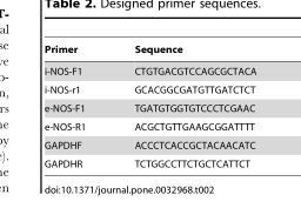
<table><thead><tr><td>Primer</td><td>Sequence</td></tr></thead><tbody><tr><td>i-NOS-F1</td><td>CTGTGACGTCCAGCGCTACA</td></tr><tr><td>i-NOS-r1</td><td>GCACGGCGATGTTGATCTCT</td></tr><tr><td>e-NOS-F1</td><td>TGATGTGGTGTCCCTCGAAC</td></tr><tr><td>e-NOS-R1</td><td>ACGCTGTTGAAGCGGATTTT</td></tr><tr><td>GAPDHF</td><td>ACCCTCACCGCTACAACATC</td></tr><tr><td>GAPDHR</td><td>TCTGGCCTTCTGCTCATTCT</td></tr></tbody></table>